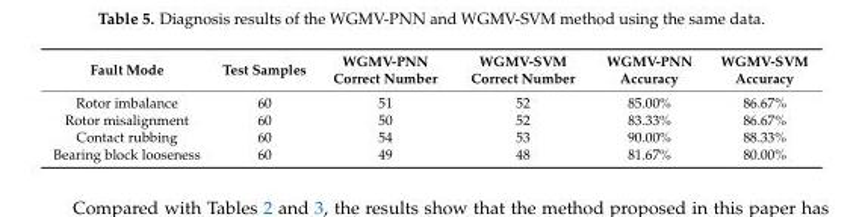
<table><thead><tr><td>Fault Mode</td><td>Test Samples</td><td>WGMV-PNN Correct Number</td><td>WGMV-SVM Correct Number</td><td>WGMV-PNN Accuracy</td><td>WGMV-SVM Accuracy</td></tr></thead><tbody><tr><td>Rotor imbalance</td><td>60</td><td>51</td><td>52</td><td>85.00%</td><td>86.67%</td></tr><tr><td>Rotor misalignment</td><td>60</td><td>50</td><td>52</td><td>83.33%</td><td>86.67%</td></tr><tr><td>Contact rubbing</td><td>60</td><td>54</td><td>53</td><td>90.00%</td><td>88.33%</td></tr><tr><td>Bearing block looseness</td><td>60</td><td>49</td><td>48</td><td>81.67%</td><td>80.00%</td></tr></tbody></table>